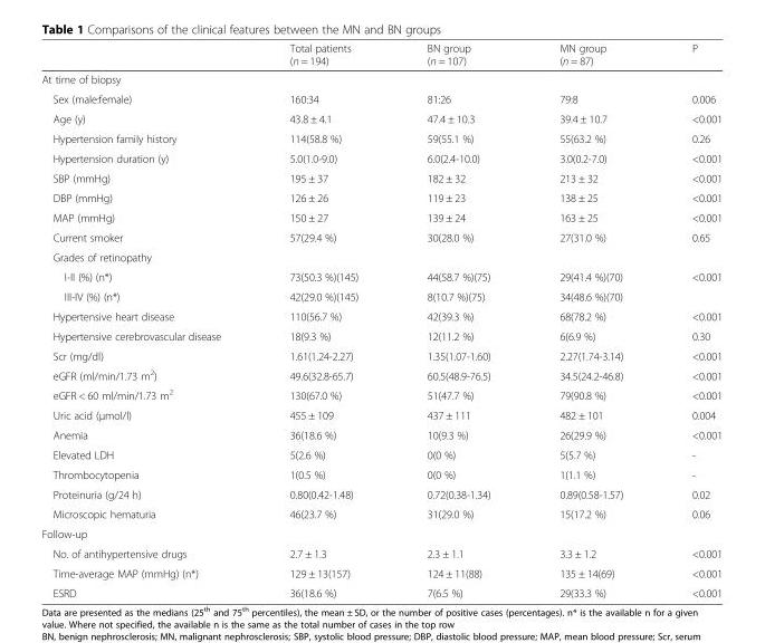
<table><thead><tr><td></td><td>Total patients (n = 194)</td><td>BN group (n = 107)</td><td>MN group (n = 87)</td><td>P</td></tr></thead><tbody><tr><td colspan="5">At time of biopsy</td></tr><tr><td>Sex (male:female)</td><td>160:34</td><td>81:26</td><td>79:8</td><td>0.006</td></tr><tr><td>Age (y)</td><td>43.8 ± 4.1</td><td>47.4 ± 10.3</td><td>39.4 ± 10.7</td><td>&lt;0.001</td></tr><tr><td>Hypertension family history</td><td>114(58.8 %)</td><td>59(55.1 %)</td><td>55(63.2 %)</td><td>0.26</td></tr><tr><td>Hypertension duration (y)</td><td>5.0(1.0-9.0)</td><td>6.0(2.4-10.0)</td><td>3.0(0.2-7.0)</td><td>&lt;0.001</td></tr><tr><td>SBP (mmHg)</td><td>195 ± 37</td><td>182 ± 32</td><td>213 ± 32</td><td>&lt;0.001</td></tr><tr><td>DBP (mmHg)</td><td>126 ± 26</td><td>119 ± 23</td><td>138 ± 25</td><td>&lt;0.001</td></tr><tr><td>MAP (mmHg)</td><td>150 ± 27</td><td>139 ± 24</td><td>163 ± 25</td><td>&lt;0.001</td></tr><tr><td>Current smoker</td><td>57(29.4 %)</td><td>30(28.0 %)</td><td>27(31.0 %)</td><td>0.65</td></tr><tr><td colspan="5">Grades of retinopathy</td></tr><tr><td>I-II (%) (n*)</td><td>73(50.3 %)(145)</td><td>44(58.7 %)(75)</td><td>29(41.4 %)(70)</td><td>&lt;0.001</td></tr><tr><td>III-IV (%) (n*)</td><td>42(29.0 %)(145)</td><td>8(10.7 %)(75)</td><td>34(48.6 %)(70)</td><td></td></tr><tr><td>Hypertensive heart disease</td><td>110(56.7 %)</td><td>42(39.3 %)</td><td>68(78.2 %)</td><td>&lt;0.001</td></tr><tr><td>Hypertensive cerebrovascular disease</td><td>18(9.3 %)</td><td>12(11.2 %)</td><td>6(6.9 %)</td><td>0.30</td></tr><tr><td>Scr (mg/dl)</td><td>1.61(1.24-2.27)</td><td>1.35(1.07-1.60)</td><td>2.27(1.74-3.14)</td><td>&lt;0.001</td></tr><tr><td>eGFR (ml/min/1.73 m<sup>2</sup>)</td><td>49.6(32.8-65.7)</td><td>60.5(48.9-76.5)</td><td>34.5(24.2-46.8)</td><td>&lt;0.001</td></tr><tr><td>eGFR &lt; 60 ml/min/1.73 m<sup>2</sup></td><td>130(67.0 %)</td><td>51(47.7 %)</td><td>79(90.8 %)</td><td>&lt;0.001</td></tr><tr><td>Uric acid (μmol/l)</td><td>455 ± 109</td><td>437 ± 111</td><td>482 ± 101</td><td>0.004</td></tr><tr><td>Anemia</td><td>36(18.6 %)</td><td>10(9.3 %)</td><td>26(29.9 %)</td><td>&lt;0.001</td></tr><tr><td>Elevated LDH</td><td>5(2.6 %)</td><td>0(0 %)</td><td>5(5.7 %)</td><td>-</td></tr><tr><td>Thrombocytopenia</td><td>1(0.5 %)</td><td>0(0 %)</td><td>1(1.1 %)</td><td>-</td></tr><tr><td>Proteinuria (g/24 h)</td><td>0.80(0.42-1.48)</td><td>0.72(0.38-1.34)</td><td>0.89(0.58-1.57)</td><td>0.02</td></tr><tr><td>Microscopic hematuria</td><td>46(23.7 %)</td><td>31(29.0 %)</td><td>15(17.2 %)</td><td>0.06</td></tr><tr><td colspan="5">Follow-up</td></tr><tr><td>No. of antihypertensive drugs</td><td>2.7 ± 1.3</td><td>2.3 ± 1.1</td><td>3.3 ± 1.2</td><td>&lt;0.001</td></tr><tr><td>Time-average MAP (mmHg) (n*)</td><td>129 ± 13(157)</td><td>124 ± 11(88)</td><td>135 ± 14(69)</td><td>&lt;0.001</td></tr><tr><td>ESRD</td><td>36(18.6 %)</td><td>7(6.5 %)</td><td>29(33.3 %)</td><td>&lt;0.001</td></tr></tbody></table>